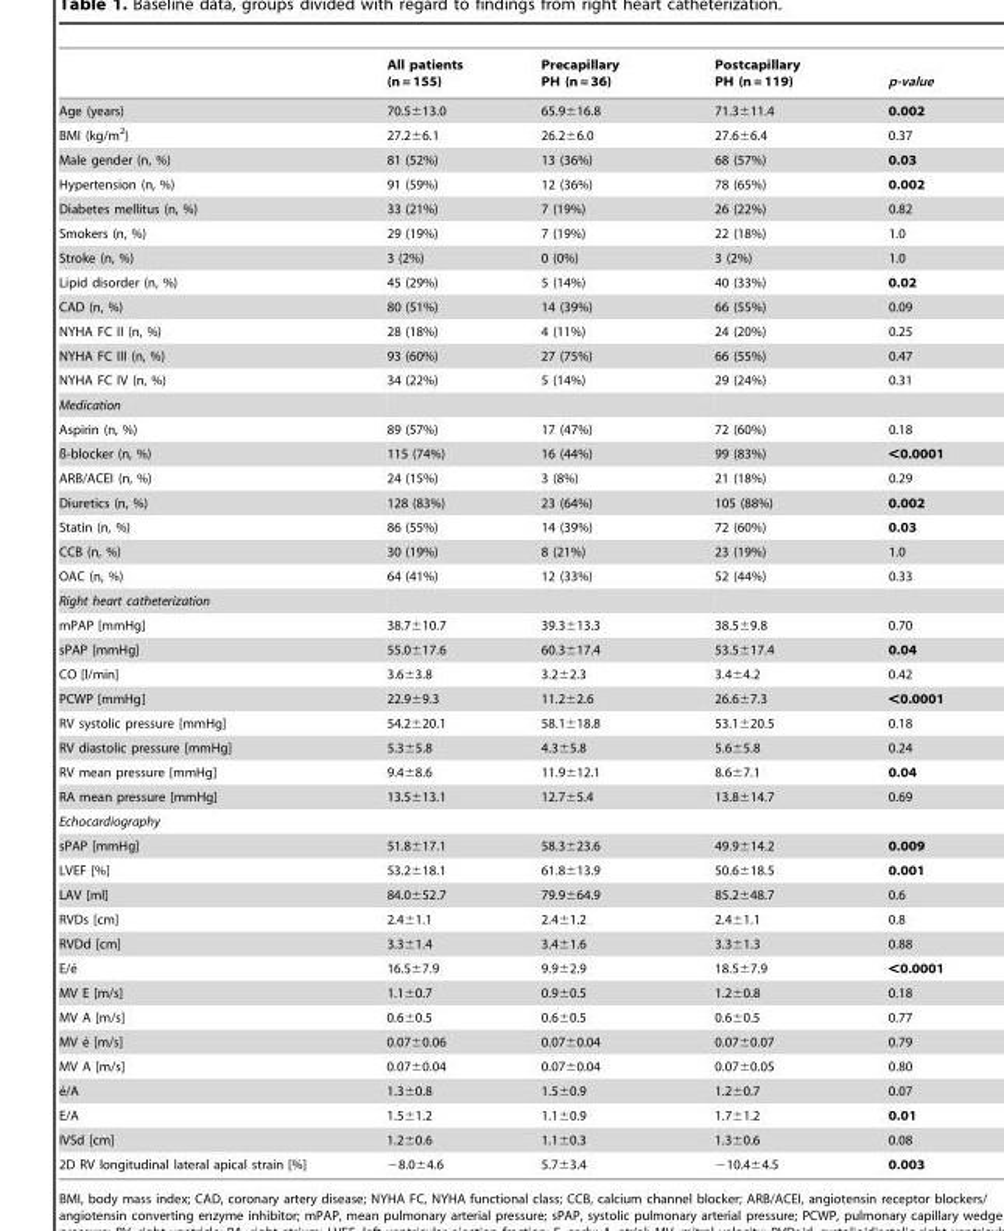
<table><thead><tr><td></td><td>All patients (n = 155)</td><td>Precapillary PH (n = 36)</td><td>Postcapillary PH (n = 119)</td><td>p-value</td></tr></thead><tbody><tr><td>Age (years)</td><td>70.5±13.0</td><td>65.9±16.8</td><td>71.3±11.4</td><td>0.002</td></tr><tr><td>BMI (kg/m<sup>2</sup>)</td><td>27.2±6.1</td><td>26.2±6.0</td><td>27.6±6.4</td><td>0.37</td></tr><tr><td>Male gender (n, %)</td><td>81 (52%)</td><td>13 (36%)</td><td>68 (57%)</td><td>0.03</td></tr><tr><td>Hypertension (n, %)</td><td>91 (59%)</td><td>12 (36%)</td><td>78 (65%)</td><td>0.002</td></tr><tr><td>Diabetes mellitus (n, %)</td><td>33 (21%)</td><td>7 (19%)</td><td>26 (22%)</td><td>0.82</td></tr><tr><td>Smokers (n, %)</td><td>29 (19%)</td><td>7 (19%)</td><td>22 (18%)</td><td>1.0</td></tr><tr><td>Stroke (n, %)</td><td>3 (2%)</td><td>0 (0%)</td><td>3 (2%)</td><td>1.0</td></tr><tr><td>Lipid disorder (n, %)</td><td>45 (29%)</td><td>5 (14%)</td><td>40 (33%)</td><td>0.02</td></tr><tr><td>CAD (n, %)</td><td>80 (51%)</td><td>14 (39%)</td><td>66 (55%)</td><td>0.09</td></tr><tr><td>NYHA FC II (n, %)</td><td>28 (18%)</td><td>4 (11%)</td><td>24 (20%)</td><td>0.25</td></tr><tr><td>NYHA FC III (n, %)</td><td>93 (60%)</td><td>27 (75%)</td><td>66 (55%)</td><td>0.47</td></tr><tr><td>NYHA FC IV (n, %)</td><td>34 (22%)</td><td>5 (14%)</td><td>29 (24%)</td><td>0.31</td></tr><tr><td colspan="5">Medication</td></tr><tr><td>Aspirin (n, %)</td><td>89 (57%)</td><td>17 (47%)</td><td>72 (60%)</td><td>0.18</td></tr><tr><td>ß-blocker (n, %)</td><td>115 (74%)</td><td>16 (44%)</td><td>99 (83%)</td><td>&lt;0.0001</td></tr><tr><td>ARB/ACEI (n, %)</td><td>24 (15%)</td><td>3 (8%)</td><td>21 (18%)</td><td>0.29</td></tr><tr><td>Diuretics (n, %)</td><td>128 (83%)</td><td>23 (64%)</td><td>105 (88%)</td><td>0.002</td></tr><tr><td>Statin (n, %)</td><td>86 (55%)</td><td>14 (39%)</td><td>72 (60%)</td><td>0.03</td></tr><tr><td>CCB (n, %)</td><td>30 (19%)</td><td>8 (21%)</td><td>23 (19%)</td><td>1.0</td></tr><tr><td>OAC (n, %)</td><td>64 (41%)</td><td>12 (33%)</td><td>52 (44%)</td><td>0.33</td></tr><tr><td colspan="5">Right heart catheterization</td></tr><tr><td>mPAP [mmHg]</td><td>38.7±10.7</td><td>39.3±13.3</td><td>38.5±9.8</td><td>0.70</td></tr><tr><td>sPAP [mmHg]</td><td>55.0±17.6</td><td>60.3±17.4</td><td>53.5±17.4</td><td>0.04</td></tr><tr><td>CO [l/min]</td><td>3.6±3.8</td><td>3.2±2.3</td><td>3.4±4.2</td><td>0.42</td></tr><tr><td>PCWP [mmHg]</td><td>22.9±9.3</td><td>11.2±2.6</td><td>26.6±7.3</td><td>&lt;0.0001</td></tr><tr><td>RV systolic pressure [mmHg]</td><td>54.2±20.1</td><td>58.1±18.8</td><td>53.1±20.5</td><td>0.18</td></tr><tr><td>RV diastolic pressure [mmHg]</td><td>5.3±5.8</td><td>4.3±5.8</td><td>5.6±5.8</td><td>0.24</td></tr><tr><td>RV mean pressure [mmHg]</td><td>9.4±8.6</td><td>11.9±12.1</td><td>8.6±7.1</td><td>0.04</td></tr><tr><td>RA mean pressure [mmHg]</td><td>13.5±13.1</td><td>12.7±5.4</td><td>13.8±14.7</td><td>0.69</td></tr><tr><td colspan="5">Echocardiography</td></tr><tr><td>sPAP [mmHg]</td><td>51.8±17.1</td><td>58.3±23.6</td><td>49.9±14.2</td><td>0.009</td></tr><tr><td>LVEF [%]</td><td>53.2±18.1</td><td>61.8±13.9</td><td>50.6±18.5</td><td>0.001</td></tr><tr><td>LAV [ml]</td><td>84.0±52.7</td><td>79.9±64.9</td><td>85.2±48.7</td><td>0.6</td></tr><tr><td>RVDs [cm]</td><td>2.4±1.1</td><td>2.4±1.2</td><td>2.4±1.1</td><td>0.8</td></tr><tr><td>RVDd [cm]</td><td>3.3±1.4</td><td>3.4±1.6</td><td>3.3±1.3</td><td>0.88</td></tr><tr><td>E/e´</td><td>16.5±7.9</td><td>9.9±2.9</td><td>18.5±7.9</td><td>&lt;0.0001</td></tr><tr><td>MV E [m/s]</td><td>1.1±0.7</td><td>0.9±0.5</td><td>1.2±0.8</td><td>0.18</td></tr><tr><td>MV A [m/s]</td><td>0.6±0.5</td><td>0.6±0.5</td><td>0.6±0.5</td><td>0.77</td></tr><tr><td>MV e´ [m/s]</td><td>0.07±0.06</td><td>0.07±0.04</td><td>0.07±0.07</td><td>0.79</td></tr><tr><td>MV A [m/s]</td><td>0.07±0.04</td><td>0.07±0.04</td><td>0.07±0.05</td><td>0.80</td></tr><tr><td>e´/A</td><td>1.3±0.8</td><td>1.5±0.9</td><td>1.2±0.7</td><td>0.07</td></tr><tr><td>E/A</td><td>1.5±1.2</td><td>1.1±0.9</td><td>1.7±1.2</td><td>0.01</td></tr><tr><td>IVSd [cm]</td><td>1.2±0.6</td><td>1.1±0.3</td><td>1.3±0.6</td><td>0.08</td></tr><tr><td>2D RV longitudinal lateral apical strain [%]</td><td>−8.0±4.6</td><td>5.7±3.4</td><td>−10.4±4.5</td><td>0.003</td></tr></tbody></table>